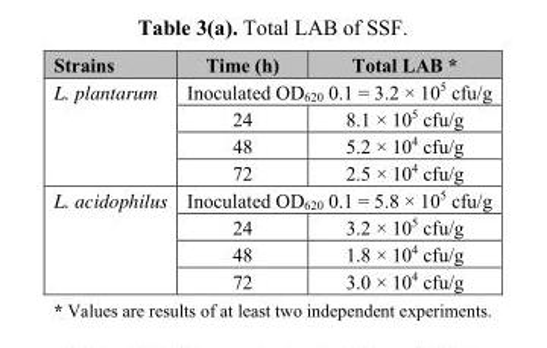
<table><thead><tr><td>Strains</td><td>Time (h)</td><td>Total LAB *</td></tr></thead><tbody><tr><td rowspan="4">L. plantarum</td><td colspan="2">Inoculated OD<sub>620</sub> 0.1 = 3.2 × 10<sup>5</sup> cfu/g</td></tr><tr><td>24</td><td>8.1 × 10<sup>5</sup> cfu/g</td></tr><tr><td>48</td><td>5.2 × 10<sup>4</sup> cfu/g</td></tr><tr><td>72</td><td>2.5 × 10<sup>4</sup> cfu/g</td></tr><tr><td rowspan="4">L. acidophilus</td><td colspan="2">Inoculated OD<sub>620</sub> 0.1 = 5.8 × 10<sup>5</sup> cfu/g</td></tr><tr><td>24</td><td>3.2 × 10<sup>5</sup> cfu/g</td></tr><tr><td>48</td><td>1.8 × 10<sup>4</sup> cfu/g</td></tr><tr><td>72</td><td>3.0 × 10<sup>4</sup> cfu/g</td></tr></tbody></table>